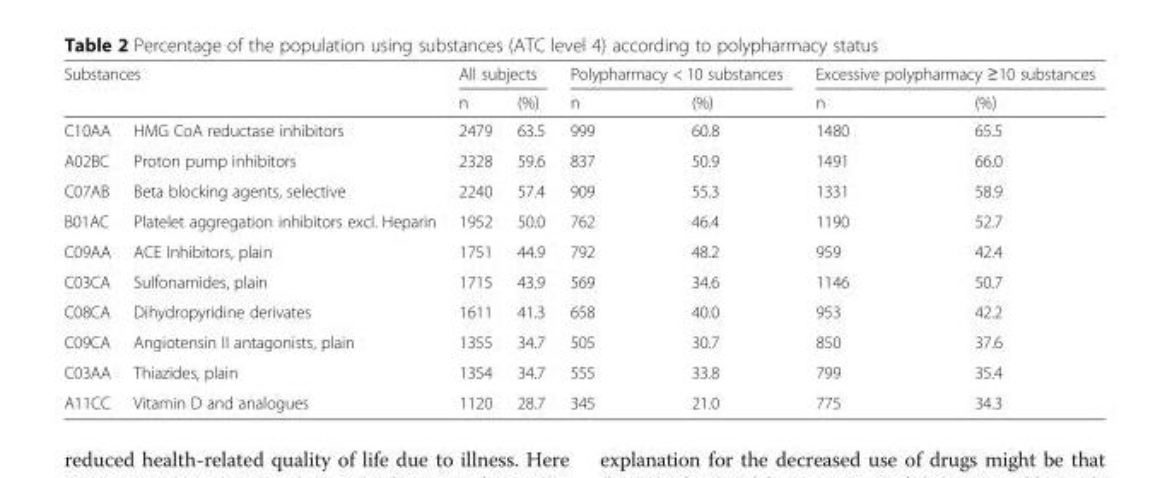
<table><thead><tr><td rowspan="2" colspan="2">Substances</td><td colspan="2">All subjects</td><td colspan="2">Polypharmacy &lt; 10 substances</td><td colspan="2">Excessive polypharmacy ≥10 substances</td></tr><tr><td rowspan="2">n 2479</td><td rowspan="2">(%) 63.5</td><td rowspan="2">n 999</td><td rowspan="2">(%) 60.8</td><td rowspan="2">n 1480</td><td rowspan="2">(%) 65.5</td></tr><tr><td>C10AA</td><td>HMG CoA reductase inhibitors</td></tr></thead><tbody><tr><td>A02BC</td><td>Proton pump inhibitors</td><td>2328</td><td>59.6</td><td>837</td><td>50.9</td><td>1491</td><td>66.0</td></tr><tr><td>C07AB</td><td>Beta blocking agents, selective</td><td>2240</td><td>57.4</td><td>909</td><td>55.3</td><td>1331</td><td>58.9</td></tr><tr><td>B01AC</td><td>Platelet aggregation inhibitors excl. Heparin</td><td>1952</td><td>50.0</td><td>762</td><td>46.4</td><td>1190</td><td>52.7</td></tr><tr><td>C09AA</td><td>ACE Inhibitors, plain</td><td>1751</td><td>44.9</td><td>792</td><td>48.2</td><td>959</td><td>42.4</td></tr><tr><td>C03CA</td><td>Sulfonamides, plain</td><td>1715</td><td>43.9</td><td>569</td><td>34.6</td><td>1146</td><td>50.7</td></tr><tr><td>C08CA</td><td>Dihydropyridine derivates</td><td>1611</td><td>41.3</td><td>658</td><td>40.0</td><td>953</td><td>42.2</td></tr><tr><td>C09CA</td><td>Angiotensin II antagonists, plain</td><td>1355</td><td>34.7</td><td>505</td><td>30.7</td><td>850</td><td>37.6</td></tr><tr><td>C03AA</td><td>Thiazides, plain</td><td>1354</td><td>34.7</td><td>555</td><td>33.8</td><td>799</td><td>35.4</td></tr><tr><td>A11CC</td><td>Vitamin D and analogues</td><td>1120</td><td>28.7</td><td>345</td><td>21.0</td><td>775</td><td>34.3</td></tr></tbody></table>